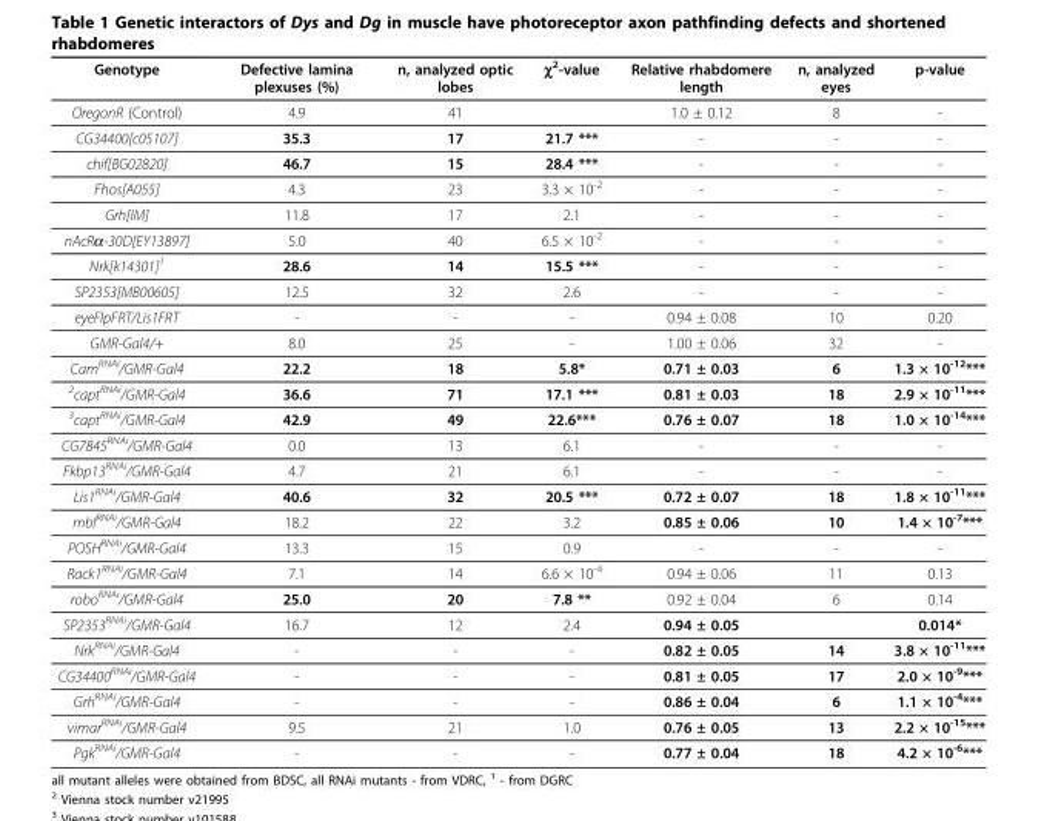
<table><thead><tr><td>Genotype</td><td>Defective lamina plexuses (%)</td><td>n, analyzed optic lobes</td><td>χ<sup>2</sup>-value</td><td>Relative rhabdomere length</td><td>n, analyzed eyes</td><td>p-value</td></tr></thead><tbody><tr><td>OregonR (Control)</td><td>4.9</td><td>41</td><td></td><td>1.0 ± 0.12</td><td>8</td><td>-</td></tr><tr><td>CG34400[c05107]</td><td>35.3</td><td>17</td><td>21.7 ***</td><td>-</td><td>-</td><td>-</td></tr><tr><td>chif[BG02820]</td><td>46.7</td><td>15</td><td>28.4 ***</td><td>-</td><td>-</td><td>-</td></tr><tr><td>Fhos[A055]</td><td>4.3</td><td>23</td><td>3.3 × 10<sup>-2</sup></td><td>-</td><td>-</td><td>-</td></tr><tr><td>Grh[IM]</td><td>11.8</td><td>17</td><td>2.1</td><td>-</td><td>-</td><td>-</td></tr><tr><td>nAcRα-30D[EY13897]</td><td>5.0</td><td>40</td><td>6.5 × 10<sup>-2</sup></td><td>-</td><td>-</td><td>-</td></tr><tr><td>Nrk[k14301]<sup>1</sup></td><td>28.6</td><td>14</td><td>15.5 ***</td><td>-</td><td>-</td><td>-</td></tr><tr><td>SP2353[MB00605]</td><td>12.5</td><td>32</td><td>2.6</td><td>-</td><td>-</td><td>-</td></tr><tr><td>eyeFlpFRT/Lis1FRT</td><td>-</td><td>-</td><td>-</td><td>0.94 ± 0.08</td><td>10</td><td>0.20</td></tr><tr><td>GMR-Gal4/+</td><td>8.0</td><td>25</td><td>-</td><td>1.00 ± 0.06</td><td>32</td><td>-</td></tr><tr><td>Cam<sup>RNAi</sup>/GMR-Gal4</td><td>22.2</td><td>18</td><td>5.8*</td><td>0.71 ± 0.03</td><td>6</td><td>1.3 × 10<sup>-12</sup>***</td></tr><tr><td><sup>2</sup>capt<sup>RNAi</sup>/GMR-Gal4</td><td>36.6</td><td>71</td><td>17.1 ***</td><td>0.81 ± 0.03</td><td>18</td><td>2.9 × 10<sup>-11</sup>***</td></tr><tr><td><sup>3</sup>capt<sup>RNAi</sup>/GMR-Gal4</td><td>42.9</td><td>49</td><td>22.6***</td><td>0.76 ± 0.07</td><td>18</td><td>1.0 × 10<sup>-14</sup>***</td></tr><tr><td>CG7845<sup>RNAi</sup>/GMR-Gal4</td><td>0.0</td><td>13</td><td>6.1</td><td>-</td><td>-</td><td>-</td></tr><tr><td>Fkbp13<sup>RNAi</sup>/GMR-Gal4</td><td>4.7</td><td>21</td><td>6.1</td><td>-</td><td>-</td><td>-</td></tr><tr><td>Lis1<sup>RNAi</sup>/GMR-Gal4</td><td>40.6</td><td>32</td><td>20.5 ***</td><td>0.72 ± 0.07</td><td>18</td><td>1.8 × 10<sup>-11</sup>***</td></tr><tr><td>mbl<sup>RNAi</sup>/GMR-Gal4</td><td>18.2</td><td>22</td><td>3.2</td><td>0.85 ± 0.06</td><td>10</td><td>1.4 × 10<sup>-7</sup>***</td></tr><tr><td>POSH<sup>RNAi</sup>/GMR-Gal4</td><td>13.3</td><td>15</td><td>0.9</td><td>-</td><td>-</td><td>-</td></tr><tr><td>Rack1<sup>RNAi</sup>/GMR-Gal4</td><td>7.1</td><td>14</td><td>6.6 × 10<sup>-4</sup></td><td>0.94 ± 0.06</td><td>11</td><td>0.13</td></tr><tr><td>robo<sup>RNAi</sup>/GMR-Gal4</td><td>25.0</td><td>20</td><td>7.8 **</td><td>0.92 ± 0.04</td><td>6</td><td>0.14</td></tr><tr><td>SP2353<sup>RNAi</sup>/GMR-Gal4</td><td>16.7</td><td>12</td><td>2.4</td><td>0.94 ± 0.05</td><td></td><td>0.014*</td></tr><tr><td>Nrk<sup>RNAi</sup>/GMR-Gal4</td><td>-</td><td>-</td><td>-</td><td>0.82 ± 0.05</td><td>14</td><td>3.8 × 10<sup>-11</sup>***</td></tr><tr><td>CG34400<sup>RNAi</sup>/GMR-Gal4</td><td>-</td><td>-</td><td>-</td><td>0.81 ± 0.05</td><td>17</td><td>2.0 × 10<sup>-9</sup>***</td></tr><tr><td>Grh<sup>RNAi</sup>/GMR-Gal4</td><td>-</td><td>-</td><td>-</td><td>0.86 ± 0.04</td><td>6</td><td>1.1 × 10<sup>-4</sup>***</td></tr><tr><td>vimar<sup>RNAi</sup>/GMR-Gal4</td><td>9.5</td><td>21</td><td>1.0</td><td>0.76 ± 0.05</td><td>13</td><td>2.2 × 10<sup>-15</sup>***</td></tr><tr><td>Pgk<sup>RNAi</sup>/GMR-Gal4</td><td>-</td><td>-</td><td>-</td><td>0.77 ± 0.04</td><td>18</td><td>4.2 × 10<sup>-6</sup>***</td></tr></tbody></table>